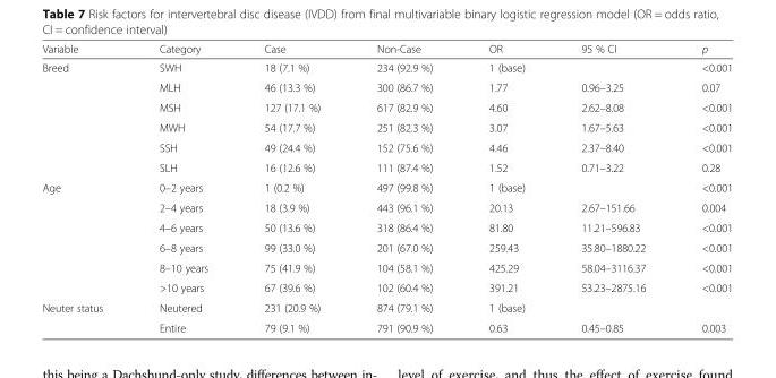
<table><thead><tr><td>Variable</td><td>Category</td><td>Case</td><td>Non-Case</td><td>OR</td><td>95 % CI</td><td>p</td></tr></thead><tbody><tr><td rowspan="6">Breed</td><td>SWH</td><td>18 (7.1 %)</td><td>234 (92.9 %)</td><td>1 (base)</td><td></td><td>&lt;0.001</td></tr><tr><td>MLH</td><td>46 (13.3 %)</td><td>300 (86.7 %)</td><td>1.77</td><td>0.96–3.25</td><td>0.07</td></tr><tr><td>MSH</td><td>127 (17.1 %)</td><td>617 (82.9 %)</td><td>4.60</td><td>2.62–8.08</td><td>&lt;0.001</td></tr><tr><td>MWH</td><td>54 (17.7 %)</td><td>251 (82.3 %)</td><td>3.07</td><td>1.67–5.63</td><td>&lt;0.001</td></tr><tr><td>SSH</td><td>49 (24.4 %)</td><td>152 (75.6 %)</td><td>4.46</td><td>2.37–8.40</td><td>&lt;0.001</td></tr><tr><td>SLH</td><td>16 (12.6 %)</td><td>111 (87.4 %)</td><td>1.52</td><td>0.71–3.22</td><td>0.28</td></tr><tr><td rowspan="6">Age</td><td>0–2 years</td><td>1 (0.2 %)</td><td>497 (99.8 %)</td><td>1 (base)</td><td></td><td>&lt;0.001</td></tr><tr><td>2–4 years</td><td>18 (3.9 %)</td><td>443 (96.1 %)</td><td>20.13</td><td>2.67–151.66</td><td>0.004</td></tr><tr><td>4–6 years</td><td>50 (13.6 %)</td><td>318 (86.4 %)</td><td>81.80</td><td>11.21–596.83</td><td>&lt;0.001</td></tr><tr><td>6–8 years</td><td>99 (33.0 %)</td><td>201 (67.0 %)</td><td>259.43</td><td>35.80–1880.22</td><td>&lt;0.001</td></tr><tr><td>8–10 years</td><td>75 (41.9 %)</td><td>104 (58.1 %)</td><td>425.29</td><td>58.04–3116.37</td><td>&lt;0.001</td></tr><tr><td>&gt;10 years</td><td>67 (39.6 %)</td><td>102 (60.4 %)</td><td>391.21</td><td>53.23–2875.16</td><td>&lt;0.001</td></tr><tr><td rowspan="2">Neuter status</td><td>Neutered</td><td>231 (20.9 %)</td><td>874 (79.1 %)</td><td>1 (base)</td><td></td><td></td></tr><tr><td>Entire</td><td>79 (9.1 %)</td><td>791 (90.9 %)</td><td>0.63</td><td>0.45–0.85</td><td>0.003</td></tr></tbody></table>